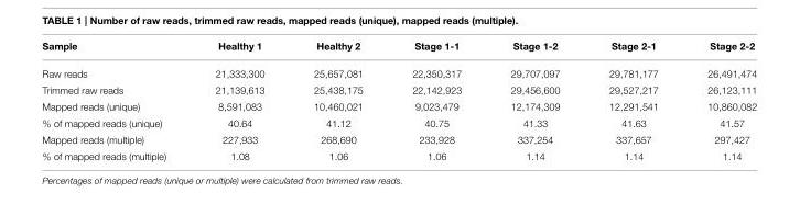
<table><thead><tr><td>Sample</td><td>Healthy 1</td><td>Healthy 2</td><td>Stage 1-1</td><td>Stage 1-2</td><td>Stage 2-1</td><td>Stage 2-2</td></tr></thead><tbody><tr><td>Raw reads</td><td>21,333,300</td><td>25,657,081</td><td>22,350,317</td><td>29,707,097</td><td>29,781,177</td><td>26,491,474</td></tr><tr><td>Trimmed raw reads</td><td>21,139,613</td><td>25,438,175</td><td>22,142,923</td><td>29,456,600</td><td>29,527,217</td><td>26,123,111</td></tr><tr><td>Mapped reads (unique)</td><td>8,591,083</td><td>10,460,021</td><td>9,023,479</td><td>12,174,309</td><td>12,291,541</td><td>10,860,082</td></tr><tr><td>% of mapped reads (unique)</td><td>40.64</td><td>41.12</td><td>40.75</td><td>41.33</td><td>41.63</td><td>41.57</td></tr><tr><td>Mapped reads (multiple)</td><td>227,933</td><td>268,690</td><td>233,928</td><td>337,254</td><td>337,657</td><td>297,427</td></tr><tr><td>% of mapped reads (multiple)</td><td>1.08</td><td>1.06</td><td>1.06</td><td>1.14</td><td>1.14</td><td>1.14</td></tr></tbody></table>